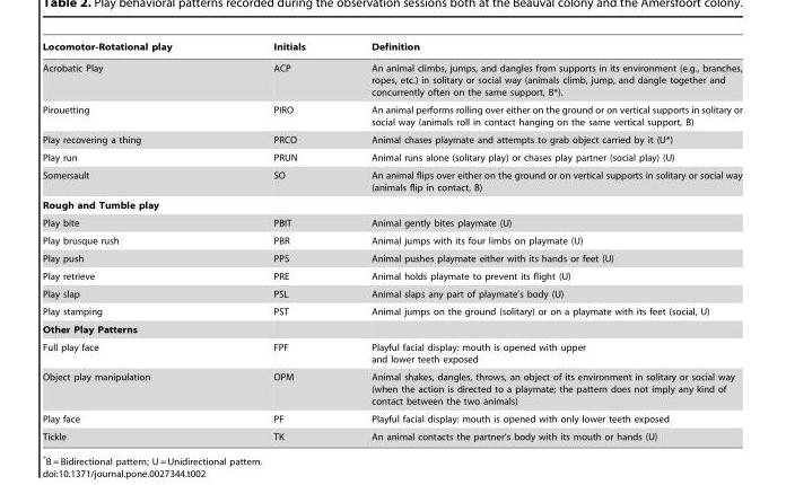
<table><thead><tr><td>Locomotor-Rotational play</td><td>Initials</td><td>Definition</td></tr></thead><tbody><tr><td>Acrobatic Play</td><td>ACP</td><td>An animal climbs, jumps, and dangles from supports in its environment (e.g., branches, ropes, etc.) in solitary or social way (animals climb, jump, and dangle together and concurrently often on the same support, B*).</td></tr><tr><td>Pirouetting</td><td>PIRO</td><td>An animal performs rolling over either on the ground or on vertical supports in solitary or social way (animals roll in contact hanging on the same vertical support, B)</td></tr><tr><td>Play recovering a thing</td><td>PRCO</td><td>Animal chases playmate and attempts to grab object carried by it (U*)</td></tr><tr><td>Play run</td><td>PRUN</td><td>Animal runs alone (solitary play) or chases play partner (social play) (U)</td></tr><tr><td>Somersault</td><td>SO</td><td>An animal flips over either on the ground or on vertical supports in solitary or social way (animals flip in contact, B)</td></tr><tr><td colspan="3">Rough and Tumble play</td></tr><tr><td>Play bite</td><td>PBIT</td><td>Animal gently bites playmate (U)</td></tr><tr><td>Play brusque rush</td><td>PBR</td><td>Animal jumps with its four limbs on playmate (U)</td></tr><tr><td>Play push</td><td>PPS</td><td>Animal pushes playmate either with its hands or feet (U)</td></tr><tr><td>Play retrieve</td><td>PRE</td><td>Animal holds playmate to prevent its flight (U)</td></tr><tr><td>Play slap</td><td>PSL</td><td>Animal slaps any part of playmate’s body (U)</td></tr><tr><td>Play stamping</td><td>PST</td><td>Animal jumps on the ground (solitary) or on a playmate with its feet (social, U)</td></tr><tr><td colspan="3">Other Play Patterns</td></tr><tr><td>Full play face</td><td>FPF</td><td>Playful facial display: mouth is opened with upper and lower teeth exposed</td></tr><tr><td>Object play manipulation</td><td>OPM</td><td>Animal shakes, dangles, throws, an object of its environment in solitary or social way (when the action is directed to a playmate; the pattern does not imply any kind of contact between the two animals)</td></tr><tr><td>Play face</td><td>PF</td><td>Playful facial display: mouth is opened with only lower teeth exposed</td></tr><tr><td>Tickle</td><td>TK</td><td>An animal contacts the partner’s body with its mouth or hands (U)</td></tr></tbody></table>